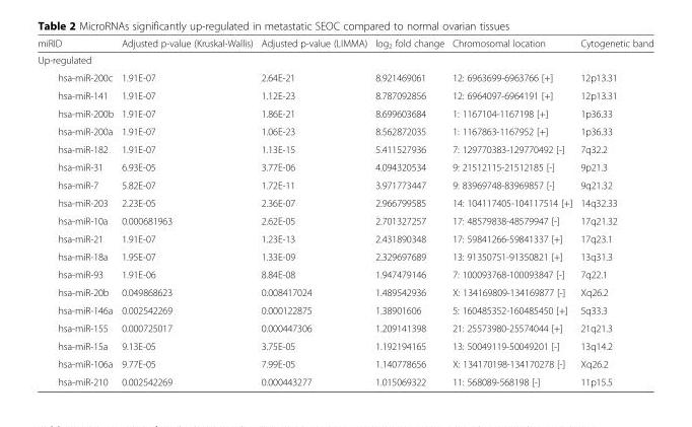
<table><thead><tr><td>miRID</td><td>Adjusted p-value (Kruskal-Wallis)</td><td>Adjusted p-value (LIMMA)</td><td>log<sub>2</sub> fold change</td><td>Chromosomal location</td><td>Cytogenetic band</td></tr></thead><tbody><tr><td colspan="6">Up-regulated</td></tr><tr><td>hsa-miR-200c</td><td>1.91E-07</td><td>2.64E-21</td><td>8.921469061</td><td>12: 6963699-6963766 [+]</td><td>12p13.31</td></tr><tr><td>hsa-miR-141</td><td>1.91E-07</td><td>1.12E-23</td><td>8.787092856</td><td>12: 6964097-6964191 [+]</td><td>12p13.31</td></tr><tr><td>hsa-miR-200b</td><td>1.91E-07</td><td>1.86E-21</td><td>8.699603684</td><td>1: 1167104-1167198 [+]</td><td>1p36.33</td></tr><tr><td>hsa-miR-200a</td><td>1.91E-07</td><td>1.06E-23</td><td>8.562872035</td><td>1: 1167863-1167952 [+]</td><td>1p36.33</td></tr><tr><td>hsa-miR-182</td><td>1.91E-07</td><td>1.13E-15</td><td>5.411527936</td><td>7: 129770383-129770492 [-]</td><td>7q32.2</td></tr><tr><td>hsa-miR-31</td><td>6.93E-05</td><td>3.77E-06</td><td>4.094320534</td><td>9: 21512115-21512185 [-]</td><td>9p21.3</td></tr><tr><td>hsa-miR-7</td><td>5.82E-07</td><td>1.72E-11</td><td>3.971773447</td><td>9: 83969748-83969857 [-]</td><td>9q21.32</td></tr><tr><td>hsa-miR-203</td><td>2.23E-05</td><td>2.36E-07</td><td>2.966799585</td><td>14: 104117405-104117514 [+]</td><td>14q32.33</td></tr><tr><td>hsa-miR-10a</td><td>0.000681963</td><td>2.62E-05</td><td>2.701327257</td><td>17: 48579838-48579947 [-]</td><td>17q21.32</td></tr><tr><td>hsa-miR-21</td><td>1.91E-07</td><td>1.23E-13</td><td>2.431890348</td><td>17: 59841266-59841337 [+]</td><td>17q23.1</td></tr><tr><td>hsa-miR-18a</td><td>1.95E-07</td><td>1.33E-09</td><td>2.329697689</td><td>13: 91350751-91350821 [+]</td><td>13q31.3</td></tr><tr><td>hsa-miR-93</td><td>1.91E-06</td><td>8.84E-08</td><td>1.947479146</td><td>7: 100093768-100093847 [-]</td><td>7q22.1</td></tr><tr><td>hsa-miR-20b</td><td>0.049868623</td><td>0.008417024</td><td>1.489542936</td><td>X: 134169809-134169877 [-]</td><td>Xq26.2</td></tr><tr><td>hsa-miR-146a</td><td>0.002542269</td><td>0.000122875</td><td>1.38901606</td><td>5: 160485352-160485450 [+]</td><td>5q33.3</td></tr><tr><td>hsa-miR-155</td><td>0.000725017</td><td>0.000447306</td><td>1.209141398</td><td>21: 25573980-25574044 [+]</td><td>21q21.3</td></tr><tr><td>hsa-miR-15a</td><td>9.13E-05</td><td>3.75E-05</td><td>1.192194165</td><td>13: 50049119-50049201 [-]</td><td>13q14.2</td></tr><tr><td>hsa-miR-106a</td><td>9.77E-05</td><td>7.99E-05</td><td>1.140778656</td><td>X: 134170198-134170278 [-]</td><td>Xq26.2</td></tr><tr><td>hsa-miR-210</td><td>0.002542269</td><td>0.000443277</td><td>1.015069322</td><td>11: 568089-568198 [-]</td><td>11p15.5</td></tr></tbody></table>